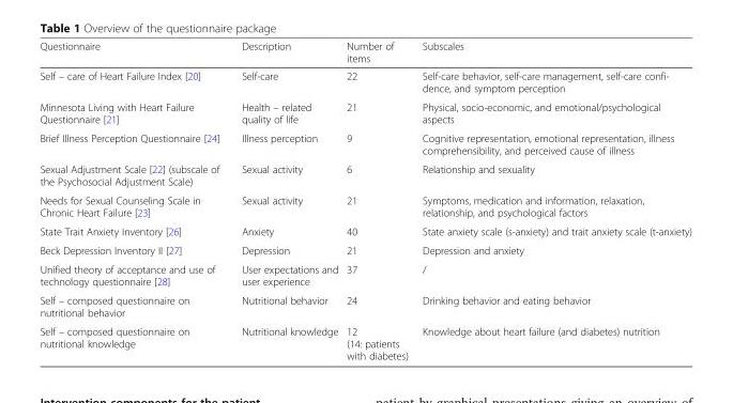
<table><thead><tr><td>Questionnaire</td><td>Description</td><td>Number of items</td><td>Subscales</td></tr></thead><tbody><tr><td>Self – care of Heart Failure Index [20]</td><td>Self-care</td><td>22</td><td>Self-care behavior, self-care management, self-care confi- dence, and symptom perception</td></tr><tr><td>Minnesota Living with Heart Failure Questionnaire [21]</td><td>Health – related quality of life</td><td>21</td><td>Physical, socio-economic, and emotional/psychological aspects</td></tr><tr><td>Brief Illness Perception Questionnaire [24]</td><td>Illness perception</td><td>9</td><td>Cognitive representation, emotional representation, illness comprehensibility, and perceived cause of illness</td></tr><tr><td>Sexual Adjustment Scale [22] (subscale of the Psychosocial Adjustment Scale)</td><td>Sexual activity</td><td>6</td><td>Relationship and sexuality</td></tr><tr><td>Needs for Sexual Counseling Scale in Chronic Heart Failure [23]</td><td>Sexual activity</td><td>21</td><td>Symptoms, medication and information, relaxation, relationship, and psychological factors</td></tr><tr><td>State Trait Anxiety Inventory [26]</td><td>Anxiety</td><td>40</td><td>State anxiety scale (s-anxiety) and trait anxiety scale (t-anxiety)</td></tr><tr><td>Beck Depression Inventory II [27]</td><td>Depression</td><td>21</td><td>Depression and anxiety</td></tr><tr><td>Unified theory of acceptance and use of technology questionnaire [28]</td><td>User expectations and user experience</td><td>37</td><td>/</td></tr><tr><td>Self – composed questionnaire on nutritional behavior</td><td>Nutritional behavior</td><td>24</td><td>Drinking behavior and eating behavior</td></tr><tr><td>Self – composed questionnaire on nutritional knowledge</td><td>Nutritional knowledge</td><td>12 (14: patients with diabetes)</td><td>Knowledge about heart failure (and diabetes) nutrition</td></tr></tbody></table>